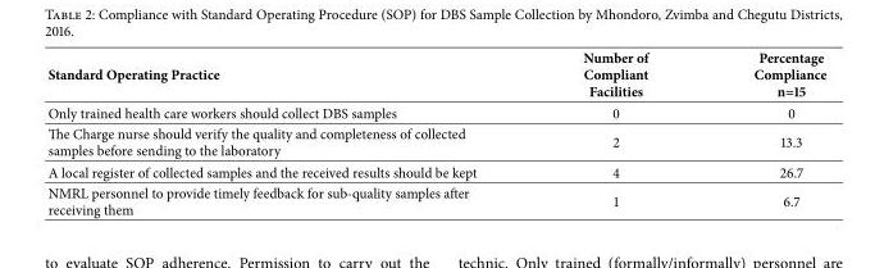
<table><thead><tr><td>Standard Operating Practice</td><td>Number of Compliant Facilities</td><td>Percentage Compliance n=15</td></tr></thead><tbody><tr><td>Only trained health care workers should collect DBS samples</td><td>0</td><td>0</td></tr><tr><td>The Charge nurse should verify the quality and completeness of collected samples before sending to the laboratory</td><td>2</td><td>13.3</td></tr><tr><td>A local register of collected samples and the received results should be kept</td><td>4</td><td>26.7</td></tr><tr><td>NMRL personnel to provide timely feedback for sub-quality samples after receiving them</td><td>1</td><td>6.7</td></tr></tbody></table>